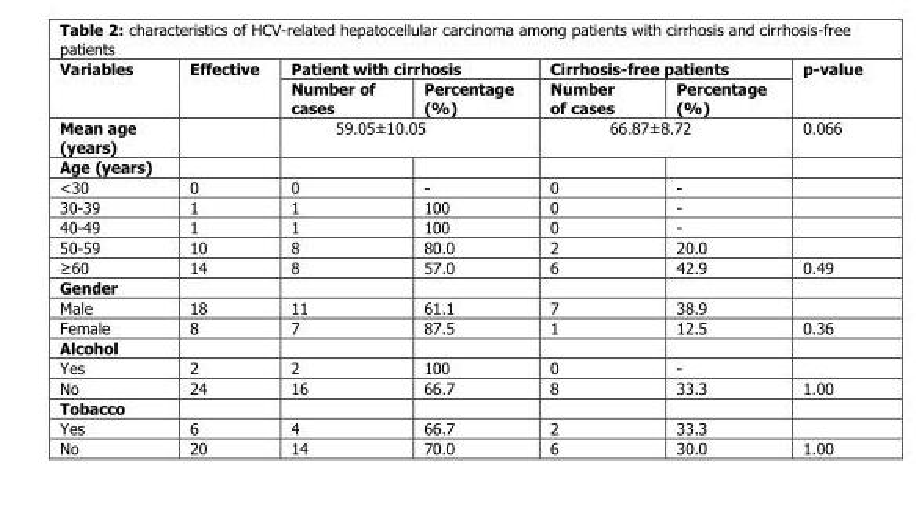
<table><thead><tr><td rowspan="2">Variables</td><td rowspan="2">Effective</td><td colspan="2">Patient with cirrhosis</td><td colspan="2">Cirrhosis-free patients</td><td rowspan="2">p-value</td></tr><tr><td>Number of cases</td><td>Percentage (%)</td><td>Number of cases</td><td>Percentage (%)</td></tr></thead><tbody><tr><td>Mean age (years)</td><td></td><td colspan="2">59.05±10.05</td><td colspan="2">66.87±8.72</td><td>0.066</td></tr><tr><td colspan="7">Age (years)</td></tr><tr><td>&lt;30</td><td>0</td><td>0</td><td>-</td><td>0</td><td>-</td><td></td></tr><tr><td>30-39</td><td>1</td><td>1</td><td>100</td><td>0</td><td>-</td><td></td></tr><tr><td>40-49</td><td>1</td><td>1</td><td>100</td><td>0</td><td>-</td><td></td></tr><tr><td>50-59</td><td>10</td><td>8</td><td>80.0</td><td>2</td><td>20.0</td><td></td></tr><tr><td>≥60</td><td>14</td><td>8</td><td>57.0</td><td>6</td><td>42.9</td><td>0.49</td></tr><tr><td colspan="7">Gender</td></tr><tr><td>Male</td><td>18</td><td>11</td><td>61.1</td><td>7</td><td>38.9</td><td></td></tr><tr><td>Female</td><td>8</td><td>7</td><td>87.5</td><td>1</td><td>12.5</td><td>0.36</td></tr><tr><td colspan="7">Alcohol</td></tr><tr><td>Yes</td><td>2</td><td>2</td><td>100</td><td>0</td><td>-</td><td></td></tr><tr><td>No</td><td>24</td><td>16</td><td>66.7</td><td>8</td><td>33.3</td><td>1.00</td></tr><tr><td colspan="7">Tobacco</td></tr><tr><td>Yes</td><td>6</td><td>4</td><td>66.7</td><td>2</td><td>33.3</td><td></td></tr><tr><td>No</td><td>20</td><td>14</td><td>70.0</td><td>6</td><td>30.0</td><td>1.00</td></tr></tbody></table>